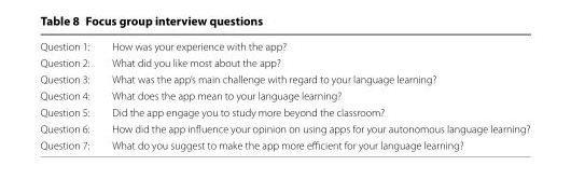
<table><tbody><tr><td>Question 1:</td><td>How was your experience with the app?</td></tr><tr><td>Question 2:</td><td>What did you like most about the app?</td></tr><tr><td>Question 3:</td><td>What was the app’s main challenge with regard to your language learning?</td></tr><tr><td>Question 4:</td><td>What does the app mean to your language learning?</td></tr><tr><td>Question 5:</td><td>Did the app engage you to study more beyond the classroom?</td></tr><tr><td>Question 6:</td><td>How did the app influence your opinion on using apps for your autonomous language learning?</td></tr><tr><td>Question 7:</td><td>What do you suggest to make the app more efficient for your language learning?</td></tr></tbody></table>